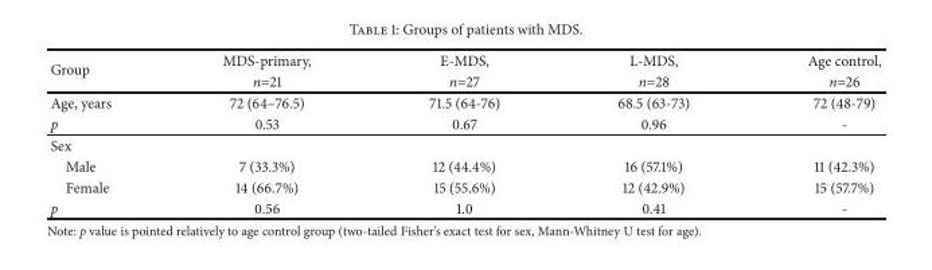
<table><thead><tr><td rowspan="2">Group</td><td rowspan="2">MDS-primary, n=21</td><td rowspan="2">E-MDS, n=27</td><td rowspan="2">L-MDS, n=28</td><td rowspan="2">Age control, n=26</td></tr><tr></tr></thead><tbody><tr><td>Age, years</td><td>72 (64–76.5)</td><td>71.5 (64-76)</td><td>68.5 (63-73)</td><td>72 (48-79)</td></tr><tr><td>p</td><td>0.53</td><td>0.67</td><td>0.96</td><td>-</td></tr><tr><td colspan="5">Sex</td></tr><tr><td>Male</td><td>7 (33.3%)</td><td>12 (44.4%)</td><td>16 (57.1%)</td><td>11 (42.3%)</td></tr><tr><td>Female</td><td>14 (66.7%)</td><td>15 (55.6%)</td><td>12 (42.9%)</td><td>15 (57.7%)</td></tr><tr><td>p</td><td>0.56</td><td>1.0</td><td>0.41</td><td>-</td></tr></tbody></table>